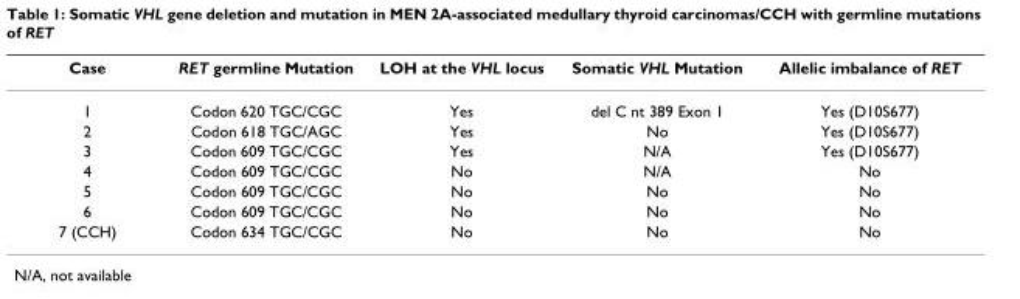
<table><thead><tr><td>Case</td><td>RET germline Mutation</td><td>LOH at the VHL locus</td><td>Somatic VHL Mutation</td><td>Allelic imbalance of RET</td></tr></thead><tbody><tr><td>1</td><td>Codon 620 TGC/CGC</td><td>Yes</td><td>del C nt 389 Exon 1</td><td>Yes (D10S677)</td></tr><tr><td>2</td><td>Codon 618 TGC/AGC</td><td>Yes</td><td>No</td><td>Yes (D10S677)</td></tr><tr><td>3</td><td>Codon 609 TGC/CGC</td><td>Yes</td><td>N/A</td><td>Yes (D10S677)</td></tr><tr><td>4</td><td>Codon 609 TGC/CGC</td><td>No</td><td>N/A</td><td>No</td></tr><tr><td>5</td><td>Codon 609 TGC/CGC</td><td>No</td><td>No</td><td>No</td></tr><tr><td>6</td><td>Codon 609 TGC/CGC</td><td>No</td><td>No</td><td>No</td></tr><tr><td>7 (CCH)</td><td>Codon 634 TGC/CGC</td><td>No</td><td>No</td><td>No</td></tr></tbody></table>